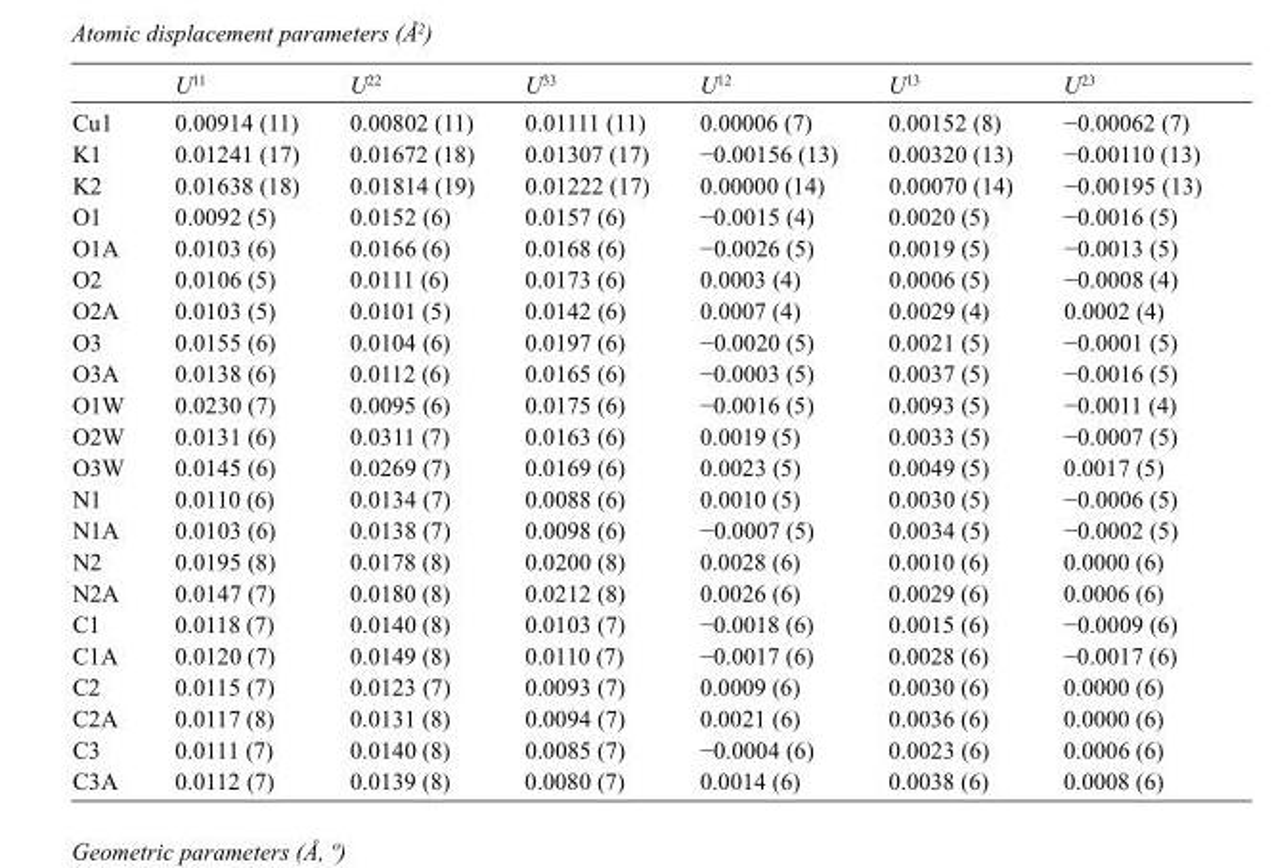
<table><thead><tr><td></td><td>U<sup>11</sup></td><td>U<sup>22</sup></td><td>U<sup>33</sup></td><td>U<sup>12</sup></td><td>U<sup>13</sup></td><td>U<sup>23</sup></td></tr></thead><tbody><tr><td>Cu1</td><td>0.00914 (11)</td><td>0.00802 (11)</td><td>0.01111 (11)</td><td>0.00006 (7)</td><td>0.00152 (8)</td><td>−0.00062 (7)</td></tr><tr><td>K1</td><td>0.01241 (17)</td><td>0.01672 (18)</td><td>0.01307 (17)</td><td>−0.00156 (13)</td><td>0.00320 (13)</td><td>−0.00110 (13)</td></tr><tr><td>K2</td><td>0.01638 (18)</td><td>0.01814 (19)</td><td>0.01222 (17)</td><td>0.00000 (14)</td><td>0.00070 (14)</td><td>−0.00195 (13)</td></tr><tr><td>O1</td><td>0.0092 (5)</td><td>0.0152 (6)</td><td>0.0157 (6)</td><td>−0.0015 (4)</td><td>0.0020 (5)</td><td>−0.0016 (5)</td></tr><tr><td>O1A</td><td>0.0103 (6)</td><td>0.0166 (6)</td><td>0.0168 (6)</td><td>−0.0026 (5)</td><td>0.0019 (5)</td><td>−0.0013 (5)</td></tr><tr><td>O2</td><td>0.0106 (5)</td><td>0.0111 (6)</td><td>0.0173 (6)</td><td>0.0003 (4)</td><td>0.0006 (5)</td><td>−0.0008 (4)</td></tr><tr><td>O2A</td><td>0.0103 (5)</td><td>0.0101 (5)</td><td>0.0142 (6)</td><td>0.0007 (4)</td><td>0.0029 (4)</td><td>0.0002 (4)</td></tr><tr><td>O3</td><td>0.0155 (6)</td><td>0.0104 (6)</td><td>0.0197 (6)</td><td>−0.0020 (5)</td><td>0.0021 (5)</td><td>−0.0001 (5)</td></tr><tr><td>O3A</td><td>0.0138 (6)</td><td>0.0112 (6)</td><td>0.0165 (6)</td><td>−0.0003 (5)</td><td>0.0037 (5)</td><td>−0.0016 (5)</td></tr><tr><td>O1W</td><td>0.0230 (7)</td><td>0.0095 (6)</td><td>0.0175 (6)</td><td>−0.0016 (5)</td><td>0.0093 (5)</td><td>−0.0011 (4)</td></tr><tr><td>O2W</td><td>0.0131 (6)</td><td>0.0311 (7)</td><td>0.0163 (6)</td><td>0.0019 (5)</td><td>0.0033 (5)</td><td>−0.0007 (5)</td></tr><tr><td>O3W</td><td>0.0145 (6)</td><td>0.0269 (7)</td><td>0.0169 (6)</td><td>0.0023 (5)</td><td>0.0049 (5)</td><td>0.0017 (5)</td></tr><tr><td>N1</td><td>0.0110 (6)</td><td>0.0134 (7)</td><td>0.0088 (6)</td><td>0.0010 (5)</td><td>0.0030 (5)</td><td>−0.0006 (5)</td></tr><tr><td>N1A</td><td>0.0103 (6)</td><td>0.0138 (7)</td><td>0.0098 (6)</td><td>−0.0007 (5)</td><td>0.0034 (5)</td><td>−0.0002 (5)</td></tr><tr><td>N2</td><td>0.0195 (8)</td><td>0.0178 (8)</td><td>0.0200 (8)</td><td>0.0028 (6)</td><td>0.0010 (6)</td><td>0.0000 (6)</td></tr><tr><td>N2A</td><td>0.0147 (7)</td><td>0.0180 (8)</td><td>0.0212 (8)</td><td>0.0026 (6)</td><td>0.0029 (6)</td><td>0.0006 (6)</td></tr><tr><td>C1</td><td>0.0118 (7)</td><td>0.0140 (8)</td><td>0.0103 (7)</td><td>−0.0018 (6)</td><td>0.0015 (6)</td><td>−0.0009 (6)</td></tr><tr><td>C1A</td><td>0.0120 (7)</td><td>0.0149 (8)</td><td>0.0110 (7)</td><td>−0.0017 (6)</td><td>0.0028 (6)</td><td>−0.0017 (6)</td></tr><tr><td>C2</td><td>0.0115 (7)</td><td>0.0123 (7)</td><td>0.0093 (7)</td><td>0.0009 (6)</td><td>0.0030 (6)</td><td>0.0000 (6)</td></tr><tr><td>C2A</td><td>0.0117 (8)</td><td>0.0131 (8)</td><td>0.0094 (7)</td><td>0.0021 (6)</td><td>0.0036 (6)</td><td>0.0000 (6)</td></tr><tr><td>C3</td><td>0.0111 (7)</td><td>0.0140 (8)</td><td>0.0085 (7)</td><td>−0.0004 (6)</td><td>0.0023 (6)</td><td>0.0006 (6)</td></tr><tr><td>C3A</td><td>0.0112 (7)</td><td>0.0139 (8)</td><td>0.0080 (7)</td><td>0.0014 (6)</td><td>0.0038 (6)</td><td>0.0008 (6)</td></tr></tbody></table>